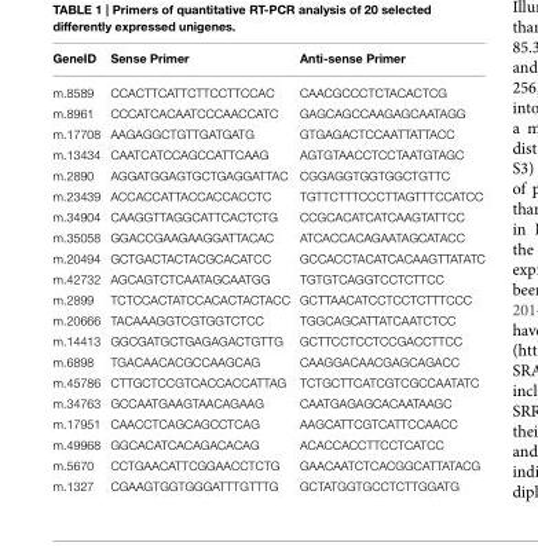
<table><thead><tr><td>GeneID</td><td>Sense Primer</td><td>Anti-sense Primer</td></tr></thead><tbody><tr><td>m.8589</td><td>CCACTTCATTCTTCCTTCCAC</td><td>CAACGCCCTCTACACTCG</td></tr><tr><td>m.8961</td><td>CCCATCACAATCCCAACCATC</td><td>GAGCAGCCAAGAGCAATAGG</td></tr><tr><td>m.17708</td><td>AAGAGGCTGTTGATGATG</td><td>GTGAGACTCCAATTATTACC</td></tr><tr><td>m.13434</td><td>CAATCATCCAGCCATTCAAG</td><td>AGTGTAACCTCCTAATGTAGC</td></tr><tr><td>m.2890</td><td>AGGATGGAGTGCTGAGGATTAC</td><td>CGGAGGTGGTGGCTGTTC</td></tr><tr><td>m.23439</td><td>ACCACCATTACCACCACCTC</td><td>TGTTCTTTCCCTTAGTTTCCATCC</td></tr><tr><td>m.34904</td><td>CAAGGTTAGGCATTCACTCTG</td><td>CCGCACATCATCAAGTATTCC</td></tr><tr><td>m.35058</td><td>GGACCGAAGAAGGATTACAC</td><td>ATCACCACAGAATAGCATACC</td></tr><tr><td>m.20494</td><td>GCTGACTACTACGCACATCC</td><td>GCCACCTACATCACAAGTTATATC</td></tr><tr><td>m.42732</td><td>AGCAGTCTCAATAGCAATGG</td><td>TGTGTCAGGTCCTCTTCC</td></tr><tr><td>m.2899</td><td>TCTCCACTATCCACACTACTACC</td><td>GCTTAACATCCTCCTCTTTCCC</td></tr><tr><td>m.20666</td><td>TACAAAGGTCGTGGTCTCC</td><td>TGGCAGCATTATCAATCTCC</td></tr><tr><td>m.14413</td><td>GGCGATGCTGAGAGACTGTTG</td><td>GCTTCCTCCTCCGACCTTCC</td></tr><tr><td>m.6898</td><td>TGACAACACGCCAAGCAG</td><td>CAAGGACAACGAGCAGACC</td></tr><tr><td>m.45786</td><td>CTTGCTCCGTCACCACCATTAG</td><td>TCTGCTTCATCGTCGCCAATATC</td></tr><tr><td>m.34763</td><td>GCCAATGAAGTAACAGAAG</td><td>CAATGAGAGCACAATAAGC</td></tr><tr><td>m.17951</td><td>CAACCTCAGCAGCCTCAG</td><td>AAGCATTCGTCATTCCAACC</td></tr><tr><td>m.49968</td><td>GGCACATCACAGACACAG</td><td>ACACCACCTTCCTCATCC</td></tr><tr><td>m.5670</td><td>CCTGAACATTCGGAACCTCTG</td><td>GAACAATCTCACGGCATTATACG</td></tr><tr><td>m.1327</td><td>CGAAGTGGTGGGATTTGTTTG</td><td>GCTATGGTGCCTCTTGGATG</td></tr></tbody></table>